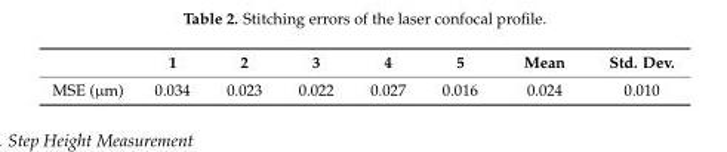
<table><thead><tr><td></td><td>1</td><td>2</td><td>3</td><td>4</td><td>5</td><td>Mean</td><td>Std. Dev.</td></tr></thead><tbody><tr><td>MSE (µm)</td><td>0.034</td><td>0.023</td><td>0.022</td><td>0.027</td><td>0.016</td><td>0.024</td><td>0.010</td></tr></tbody></table>